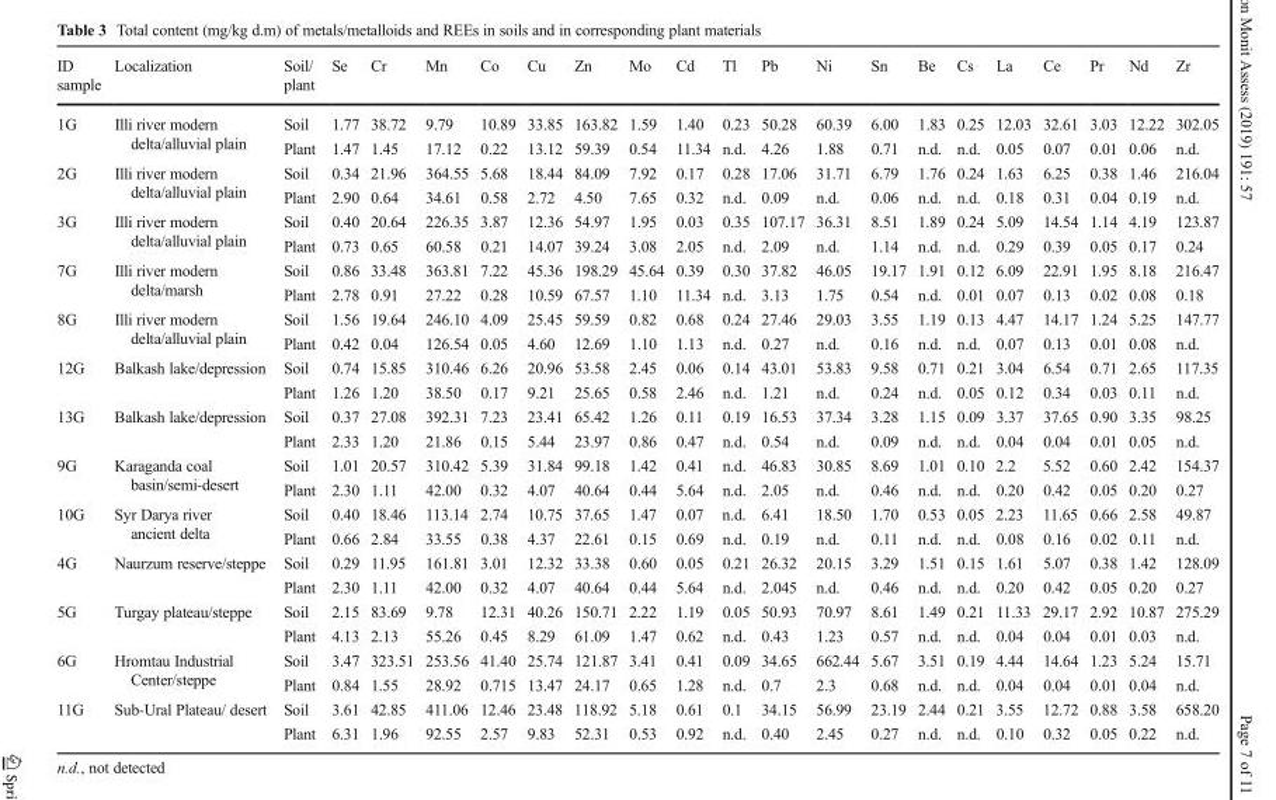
<table><thead><tr><td>ID sample</td><td>Localization</td><td>Soil/ plant</td><td>Se</td><td>Cr</td><td>Mn</td><td>Co</td><td>Cu</td><td>Zn</td><td>Mo</td><td>Cd</td><td>Tl</td><td>Pb</td><td>Ni</td><td>Sn</td><td>Be</td><td>Cs</td><td>La</td><td>Ce</td><td>Pr</td><td>Nd</td><td>Zr</td></tr></thead><tbody><tr><td rowspan="2">1G</td><td rowspan="2">Illi river modern delta/alluvial plain</td><td>Soil</td><td>1.77</td><td>38.72</td><td>9.79</td><td>10.89</td><td>33.85</td><td>163.82</td><td>1.59</td><td>1.40</td><td>0.23</td><td>50.28</td><td>60.39</td><td>6.00</td><td>1.83</td><td>0.25</td><td>12.03</td><td>32.61</td><td>3.03</td><td>12.22</td><td>302.05</td></tr><tr><td>Plant</td><td>1.47</td><td>1.45</td><td>17.12</td><td>0.22</td><td>13.12</td><td>59.39</td><td>0.54</td><td>11.34</td><td>n.d.</td><td>4.26</td><td>1.88</td><td>0.71</td><td>n.d.</td><td>n.d.</td><td>0.05</td><td>0.07</td><td>0.01</td><td>0.06</td><td>n.d.</td></tr><tr><td rowspan="2">2G</td><td rowspan="2">Illi river modern delta/alluvial plain</td><td>Soil</td><td>0.34</td><td>21.96</td><td>364.55</td><td>5.68</td><td>18.44</td><td>84.09</td><td>7.92</td><td>0.17</td><td>0.28</td><td>17.06</td><td>31.71</td><td>6.79</td><td>1.76</td><td>0.24</td><td>1.63</td><td>6.25</td><td>0.38</td><td>1.46</td><td>216.04</td></tr><tr><td>Plant</td><td>2.90</td><td>0.64</td><td>34.61</td><td>0.58</td><td>2.72</td><td>4.50</td><td>7.65</td><td>0.32</td><td>n.d.</td><td>0.09</td><td>n.d.</td><td>0.06</td><td>n.d.</td><td>n.d.</td><td>0.18</td><td>0.31</td><td>0.04</td><td>0.19</td><td>n.d.</td></tr><tr><td rowspan="2">3G</td><td rowspan="2">Illi river modern delta/alluvial plain</td><td>Soil</td><td>0.40</td><td>20.64</td><td>226.35</td><td>3.87</td><td>12.36</td><td>54.97</td><td>1.95</td><td>0.03</td><td>0.35</td><td>107.17</td><td>36.31</td><td>8.51</td><td>1.89</td><td>0.24</td><td>5.09</td><td>14.54</td><td>1.14</td><td>4.19</td><td>123.87</td></tr><tr><td>Plant</td><td>0.73</td><td>0.65</td><td>60.58</td><td>0.21</td><td>14.07</td><td>39.24</td><td>3.08</td><td>2.05</td><td>n.d.</td><td>2.09</td><td>n.d.</td><td>1.14</td><td>n.d.</td><td>n.d.</td><td>0.29</td><td>0.39</td><td>0.05</td><td>0.17</td><td>0.24</td></tr><tr><td rowspan="2">7G</td><td rowspan="2">Illi river modern delta/marsh</td><td>Soil</td><td>0.86</td><td>33.48</td><td>363.81</td><td>7.22</td><td>45.36</td><td>198.29</td><td>45.64</td><td>0.39</td><td>0.30</td><td>37.82</td><td>46.05</td><td>19.17</td><td>1.91</td><td>0.12</td><td>6.09</td><td>22.91</td><td>1.95</td><td>8.18</td><td>216.47</td></tr><tr><td>Plant</td><td>2.78</td><td>0.91</td><td>27.22</td><td>0.28</td><td>10.59</td><td>67.57</td><td>1.10</td><td>11.34</td><td>n.d.</td><td>3.13</td><td>1.75</td><td>0.54</td><td>n.d.</td><td>0.01</td><td>0.07</td><td>0.13</td><td>0.02</td><td>0.08</td><td>0.18</td></tr><tr><td rowspan="2">8G</td><td rowspan="2">Illi river modern delta/alluvial plain</td><td>Soil</td><td>1.56</td><td>19.64</td><td>246.10</td><td>4.09</td><td>25.45</td><td>59.59</td><td>0.82</td><td>0.68</td><td>0.24</td><td>27.46</td><td>29.03</td><td>3.55</td><td>1.19</td><td>0.13</td><td>4.47</td><td>14.17</td><td>1.24</td><td>5.25</td><td>147.77</td></tr><tr><td>Plant</td><td>0.42</td><td>0.04</td><td>126.54</td><td>0.05</td><td>4.60</td><td>12.69</td><td>1.10</td><td>1.13</td><td>n.d.</td><td>0.27</td><td>n.d.</td><td>0.16</td><td>n.d.</td><td>n.d.</td><td>0.07</td><td>0.13</td><td>0.01</td><td>0.08</td><td>n.d.</td></tr><tr><td rowspan="2">12G</td><td rowspan="2">Balkash lake/depression</td><td>Soil</td><td>0.74</td><td>15.85</td><td>310.46</td><td>6.26</td><td>20.96</td><td>53.58</td><td>2.45</td><td>0.06</td><td>0.14</td><td>43.01</td><td>53.83</td><td>9.58</td><td>0.71</td><td>0.21</td><td>3.04</td><td>6.54</td><td>0.71</td><td>2.65</td><td>117.35</td></tr><tr><td>Plant</td><td>1.26</td><td>1.20</td><td>38.50</td><td>0.17</td><td>9.21</td><td>25.65</td><td>0.58</td><td>2.46</td><td>n.d.</td><td>1.21</td><td>n.d.</td><td>0.24</td><td>n.d.</td><td>0.05</td><td>0.12</td><td>0.34</td><td>0.03</td><td>0.11</td><td>n.d.</td></tr><tr><td rowspan="2">13G</td><td rowspan="2">Balkash lake/depression</td><td>Soil</td><td>0.37</td><td>27.08</td><td>392.31</td><td>7.23</td><td>23.41</td><td>65.42</td><td>1.26</td><td>0.11</td><td>0.19</td><td>16.53</td><td>37.34</td><td>3.28</td><td>1.15</td><td>0.09</td><td>3.37</td><td>37.65</td><td>0.90</td><td>3.35</td><td>98.25</td></tr><tr><td>Plant</td><td>2.33</td><td>1.20</td><td>21.86</td><td>0.15</td><td>5.44</td><td>23.97</td><td>0.86</td><td>0.47</td><td>n.d.</td><td>0.54</td><td>n.d.</td><td>0.09</td><td>n.d.</td><td>n.d.</td><td>0.04</td><td>0.04</td><td>0.01</td><td>0.05</td><td>n.d.</td></tr><tr><td rowspan="2">9G</td><td rowspan="2">Karaganda coal basin/semi-desert</td><td>Soil</td><td>1.01</td><td>20.57</td><td>310.42</td><td>5.39</td><td>31.84</td><td>99.18</td><td>1.42</td><td>0.41</td><td>n.d.</td><td>46.83</td><td>30.85</td><td>8.69</td><td>1.01</td><td>0.10</td><td>2.2</td><td>5.52</td><td>0.60</td><td>2.42</td><td>154.37</td></tr><tr><td>Plant</td><td>2.30</td><td>1.11</td><td>42.00</td><td>0.32</td><td>4.07</td><td>40.64</td><td>0.44</td><td>5.64</td><td>n.d.</td><td>2.05</td><td>n.d.</td><td>0.46</td><td>n.d.</td><td>n.d.</td><td>0.20</td><td>0.42</td><td>0.05</td><td>0.20</td><td>0.27</td></tr><tr><td rowspan="2">10G</td><td rowspan="2">Syr Darya river ancient delta</td><td>Soil</td><td>0.40</td><td>18.46</td><td>113.14</td><td>2.74</td><td>10.75</td><td>37.65</td><td>1.47</td><td>0.07</td><td>n.d.</td><td>6.41</td><td>18.50</td><td>1.70</td><td>0.53</td><td>0.05</td><td>2.23</td><td>11.65</td><td>0.66</td><td>2.58</td><td>49.87</td></tr><tr><td>Plant</td><td>0.66</td><td>2.84</td><td>33.55</td><td>0.38</td><td>4.37</td><td>22.61</td><td>0.15</td><td>0.69</td><td>n.d.</td><td>0.19</td><td>n.d.</td><td>0.11</td><td>n.d.</td><td>n.d.</td><td>0.08</td><td>0.16</td><td>0.02</td><td>0.11</td><td>n.d.</td></tr><tr><td rowspan="2">4G</td><td rowspan="2">Naurzum reserve/steppe</td><td>Soil</td><td>0.29</td><td>11.95</td><td>161.81</td><td>3.01</td><td>12.32</td><td>33.38</td><td>0.60</td><td>0.05</td><td>0.21</td><td>26.32</td><td>20.15</td><td>3.29</td><td>1.51</td><td>0.15</td><td>1.61</td><td>5.07</td><td>0.38</td><td>1.42</td><td>128.09</td></tr><tr><td>Plant</td><td>2.30</td><td>1.11</td><td>42.00</td><td>0.32</td><td>4.07</td><td>40.64</td><td>0.44</td><td>5.64</td><td>n.d.</td><td>2.045</td><td>n.d.</td><td>0.46</td><td>n.d.</td><td>n.d.</td><td>0.20</td><td>0.42</td><td>0.05</td><td>0.20</td><td>0.27</td></tr><tr><td rowspan="2">5G</td><td rowspan="2">Turgay plateau/steppe</td><td>Soil</td><td>2.15</td><td>83.69</td><td>9.78</td><td>12.31</td><td>40.26</td><td>150.71</td><td>2.22</td><td>1.19</td><td>0.05</td><td>50.93</td><td>70.97</td><td>8.61</td><td>1.49</td><td>0.21</td><td>11.33</td><td>29.17</td><td>2.92</td><td>10.87</td><td>275.29</td></tr><tr><td>Plant</td><td>4.13</td><td>2.13</td><td>55.26</td><td>0.45</td><td>8.29</td><td>61.09</td><td>1.47</td><td>0.62</td><td>n.d.</td><td>0.43</td><td>1.23</td><td>0.57</td><td>n.d.</td><td>n.d.</td><td>0.04</td><td>0.04</td><td>0.01</td><td>0.03</td><td>n.d.</td></tr><tr><td rowspan="2">6G</td><td rowspan="2">Hromtau Industrial Center/steppe</td><td>Soil</td><td>3.47</td><td>323.51</td><td>253.56</td><td>41.40</td><td>25.74</td><td>121.87</td><td>3.41</td><td>0.41</td><td>0.09</td><td>34.65</td><td>662.44</td><td>5.67</td><td>3.51</td><td>0.19</td><td>4.44</td><td>14.64</td><td>1.23</td><td>5.24</td><td>15.71</td></tr><tr><td>Plant</td><td>0.84</td><td>1.55</td><td>28.92</td><td>0.715</td><td>13.47</td><td>24.17</td><td>0.65</td><td>1.28</td><td>n.d.</td><td>0.7</td><td>2.3</td><td>0.68</td><td>n.d.</td><td>n.d.</td><td>0.04</td><td>0.04</td><td>0.01</td><td>0.04</td><td>n.d.</td></tr><tr><td rowspan="2">11G</td><td rowspan="2">Sub-Ural Plateau/ desert</td><td>Soil</td><td>3.61</td><td>42.85</td><td>411.06</td><td>12.46</td><td>23.48</td><td>118.92</td><td>5.18</td><td>0.61</td><td>0.1</td><td>34.15</td><td>56.99</td><td>23.19</td><td>2.44</td><td>0.21</td><td>3.55</td><td>12.72</td><td>0.88</td><td>3.58</td><td>658.20</td></tr><tr><td>Plant</td><td>6.31</td><td>1.96</td><td>92.55</td><td>2.57</td><td>9.83</td><td>52.31</td><td>0.53</td><td>0.92</td><td>n.d.</td><td>0.40</td><td>2.45</td><td>0.27</td><td>n.d.</td><td>n.d.</td><td>0.10</td><td>0.32</td><td>0.05</td><td>0.22</td><td>n.d.</td></tr></tbody></table>